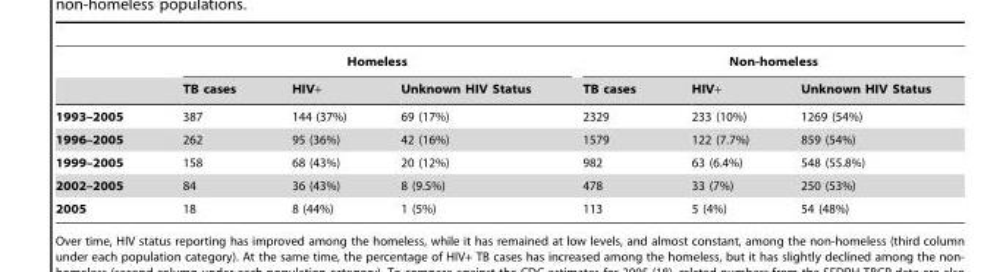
<table><thead><tr><td rowspan="2"></td><td colspan="3">Homeless</td><td colspan="3">Non-homeless</td></tr><tr><td>TB cases</td><td>HIV+</td><td>Unknown HIV Status</td><td>TB cases</td><td>HIV+</td><td>Unknown HIV Status</td></tr></thead><tbody><tr><td>1993–2005</td><td>387</td><td>144 (37%)</td><td>69 (17%)</td><td>2329</td><td>233 (10%)</td><td>1269 (54%)</td></tr><tr><td>1996–2005</td><td>262</td><td>95 (36%)</td><td>42 (16%)</td><td>1579</td><td>122 (7.7%)</td><td>859 (54%)</td></tr><tr><td>1999–2005</td><td>158</td><td>68 (43%)</td><td>20 (12%)</td><td>982</td><td>63 (6.4%)</td><td>548 (55.8%)</td></tr><tr><td>2002–2005</td><td>84</td><td>36 (43%)</td><td>8 (9.5%)</td><td>478</td><td>33 (7%)</td><td>250 (53%)</td></tr><tr><td>2005</td><td>18</td><td>8 (44%)</td><td>1 (5%)</td><td>113</td><td>5 (4%)</td><td>54 (48%)</td></tr></tbody></table>